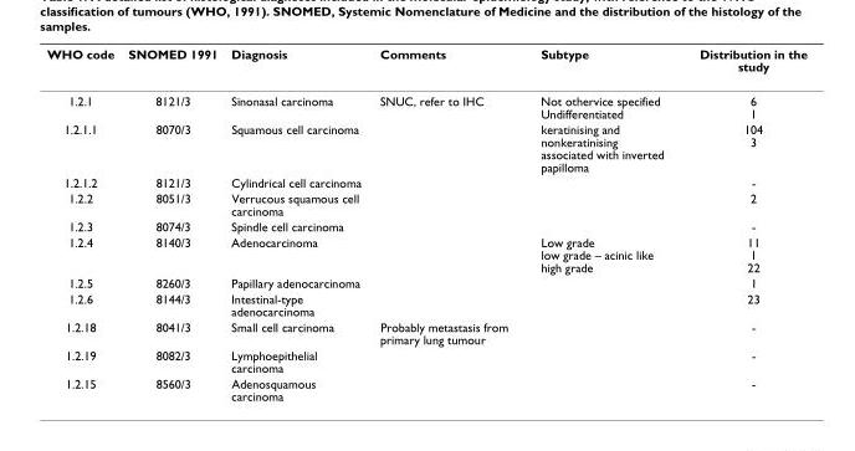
<table><thead><tr><td>WHO code</td><td>SNOMED 1991</td><td>Diagnosis</td><td>Comments</td><td>Subtype</td><td>Distribution in the study</td></tr></thead><tbody><tr><td>1.2.1</td><td>8121/3</td><td>Sinonasal carcinoma</td><td>SNUC, refer to IHC</td><td>Not othervice specified Undifferentiated</td><td>6 1</td></tr><tr><td>1.2.1.1</td><td>8070/3</td><td>Squamous cell carcinoma</td><td></td><td>keratinising and nonkeratinising associated with inverted papilloma</td><td>104 3</td></tr><tr><td>1.2.1.2</td><td>8121/3</td><td>Cylindrical cell carcinoma</td><td></td><td></td><td>-</td></tr><tr><td>1.2.2</td><td>8051/3</td><td>Verrucous squamous cell carcinoma</td><td></td><td></td><td>2</td></tr><tr><td>1.2.3</td><td>8074/3</td><td>Spindle cell carcinoma</td><td></td><td></td><td>-</td></tr><tr><td>1.2.4</td><td>8140/3</td><td>Adenocarcinoma</td><td></td><td>Low grade low grade – acinic like high grade</td><td>11 1 22</td></tr><tr><td>1.2.5</td><td>8260/3</td><td>Papillary adenocarcinoma</td><td></td><td></td><td>1</td></tr><tr><td>1.2.6</td><td>8144/3</td><td>Intestinal-type adenocarcinoma</td><td></td><td></td><td>23</td></tr><tr><td>1.2.18</td><td>8041/3</td><td>Small cell carcinoma</td><td>Probably metastasis from primary lung tumour</td><td></td><td>-</td></tr><tr><td>1.2.19</td><td>8082/3</td><td>Lymphoepithelial carcinoma</td><td></td><td></td><td>-</td></tr><tr><td>1.2.15</td><td>8560/3</td><td>Adenosquamous carcinoma</td><td></td><td></td><td>-</td></tr></tbody></table>